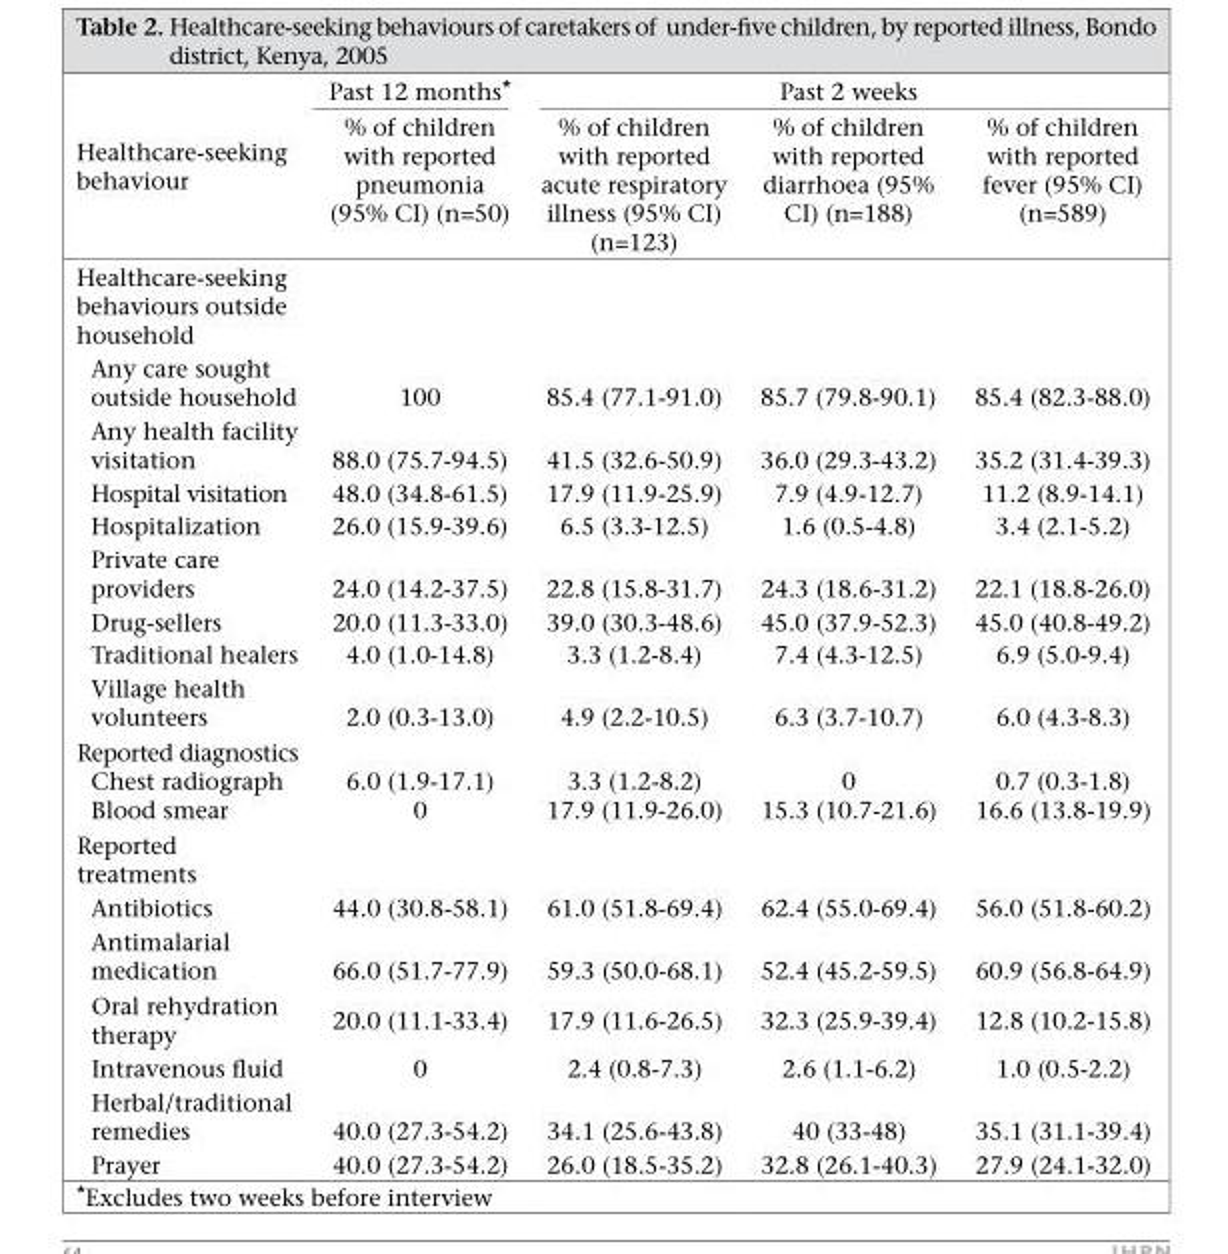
<table><thead><tr><td rowspan="2">Healthcare-seeking behaviour</td><td rowspan="2">Past 12 months* % of children with reported pneumonia (95% CI) (n=50)</td><td colspan="3">Past 2 weeks</td></tr><tr><td>% of children with reported acute respiratory illness (95% CI) (n=123)</td><td>% of children with reported diarrhoea (95% CI) (n=188)</td><td>% of children with reported fever (95% CI) (n=589)</td></tr></thead><tbody><tr><td colspan="5">Healthcare-seeking behaviours outside household</td></tr><tr><td>Any care sought outside household</td><td>100</td><td>85.4 (77.1-91.0)</td><td>85.7 (79.8-90.1)</td><td>85.4 (82.3-88.0)</td></tr><tr><td>Any health facility visitation</td><td>88.0 (75.7-94.5)</td><td>41.5 (32.6-50.9)</td><td>36.0 (29.3-43.2)</td><td>35.2 (31.4-39.3)</td></tr><tr><td>Hospital visitation</td><td>48.0 (34.8-61.5)</td><td>17.9 (11.9-25.9)</td><td>7.9 (4.9-12.7)</td><td>11.2 (8.9-14.1)</td></tr><tr><td>Hospitalization</td><td>26.0 (15.9-39.6)</td><td>6.5 (3.3-12.5)</td><td>1.6 (0.5-4.8)</td><td>3.4 (2.1-5.2)</td></tr><tr><td>Private care providers</td><td>24.0 (14.2-37.5)</td><td>22.8 (15.8-31.7)</td><td>24.3 (18.6-31.2)</td><td>22.1 (18.8-26.0)</td></tr><tr><td>Drug-sellers</td><td>20.0 (11.3-33.0)</td><td>39.0 (30.3-48.6)</td><td>45.0 (37.9-52.3)</td><td>45.0 (40.8-49.2)</td></tr><tr><td>Traditional healers</td><td>4.0 (1.0-14.8)</td><td>3.3 (1.2-8.4)</td><td>7.4 (4.3-12.5)</td><td>6.9 (5.0-9.4)</td></tr><tr><td>Village health volunteers</td><td>2.0 (0.3-13.0)</td><td>4.9 (2.2-10.5)</td><td>6.3 (3.7-10.7)</td><td>6.0 (4.3-8.3)</td></tr><tr><td colspan="5">Reported diagnostics</td></tr><tr><td>Chest radiograph</td><td>6.0 (1.9-17.1)</td><td>3.3 (1.2-8.2)</td><td>0</td><td>0.7 (0.3-1.8)</td></tr><tr><td>Blood smear</td><td>0</td><td>17.9 (11.9-26.0)</td><td>15.3 (10.7-21.6)</td><td>16.6 (13.8-19.9)</td></tr><tr><td colspan="5">Reported treatments</td></tr><tr><td>Antibiotics</td><td>44.0 (30.8-58.1)</td><td>61.0 (51.8-69.4)</td><td>62.4 (55.0-69.4)</td><td>56.0 (51.8-60.2)</td></tr><tr><td>Antimalarial medication</td><td>66.0 (51.7-77.9)</td><td>59.3 (50.0-68.1)</td><td>52.4 (45.2-59.5)</td><td>60.9 (56.8-64.9)</td></tr><tr><td>Oral rehydration therapy</td><td>20.0 (11.1-33.4)</td><td>17.9 (11.6-26.5)</td><td>32.3 (25.9-39.4)</td><td>12.8 (10.2-15.8)</td></tr><tr><td>Intravenous fluid</td><td>0</td><td>2.4 (0.8-7.3)</td><td>2.6 (1.1-6.2)</td><td>1.0 (0.5-2.2)</td></tr><tr><td>Herbal/traditional remedies</td><td>40.0 (27.3-54.2)</td><td>34.1 (25.6-43.8)</td><td>40 (33-48)</td><td>35.1 (31.1-39.4)</td></tr><tr><td>Prayer</td><td>40.0 (27.3-54.2)</td><td>26.0 (18.5-35.2)</td><td>32.8 (26.1-40.3)</td><td>27.9 (24.1-32.0)</td></tr></tbody></table>